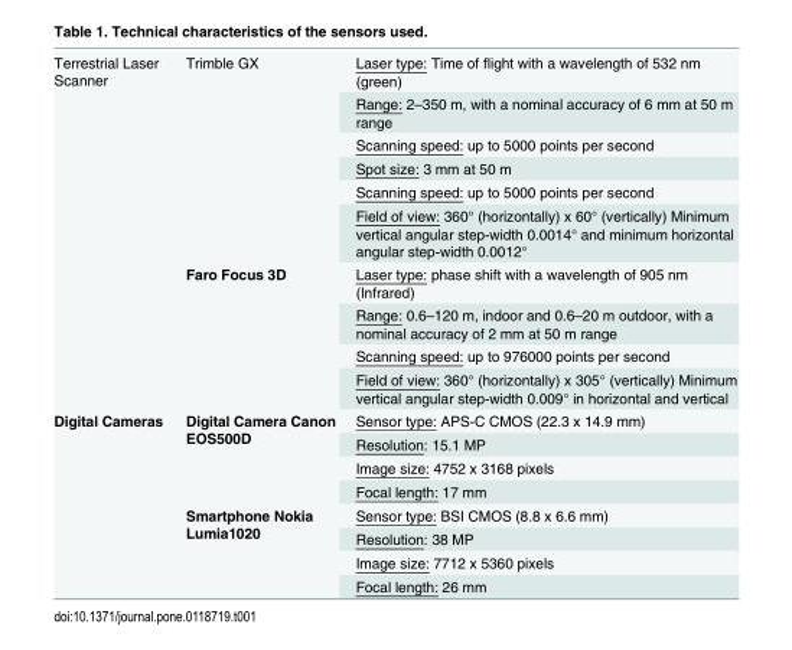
<table><tbody><tr><td rowspan="10">Terrestrial Laser Scanner</td><td rowspan="6">Trimble GX</td><td>Laser type: Time of flight with a wavelength of 532 nm (green)</td></tr><tr><td>Range: 2–350 m, with a nominal accuracy of 6 mm at 50 m range</td></tr><tr><td>Scanning speed: up to 5000 points per second</td></tr><tr><td>Spot size: 3 mm at 50 m</td></tr><tr><td>Scanning speed: up to 5000 points per second</td></tr><tr><td>Field of view: 360° (horizontally) x 60° (vertically) Minimum vertical angular step-width 0.0014° and minimum horizontal angular step-width 0.0012°</td></tr><tr><td rowspan="4">Faro Focus 3D</td><td>Laser type: phase shift with a wavelength of 905 nm (Infrared)</td></tr><tr><td>Range: 0.6–120 m, indoor and 0.6–20 m outdoor, with a nominal accuracy of 2 mm at 50 m range</td></tr><tr><td>Scanning speed: up to 976000 points per second</td></tr><tr><td>Field of view: 360° (horizontally) x 305° (vertically) Minimum vertical angular step-width 0.009° in horizontal and vertical</td></tr><tr><td rowspan="8">Digital Cameras</td><td rowspan="4">Digital Camera Canon EOS500D</td><td>Sensor type: APS-C CMOS (22.3 x 14.9 mm)</td></tr><tr><td>Resolution: 15.1 MP</td></tr><tr><td>Image size: 4752 x 3168 pixels</td></tr><tr><td>Focal length: 17 mm</td></tr><tr><td rowspan="4">Smartphone Nokia Lumia1020</td><td>Sensor type: BSI CMOS (8.8 x 6.6 mm)</td></tr><tr><td>Resolution: 38 MP</td></tr><tr><td>Image size: 7712 x 5360 pixels</td></tr><tr><td>Focal length: 26 mm</td></tr></tbody></table>